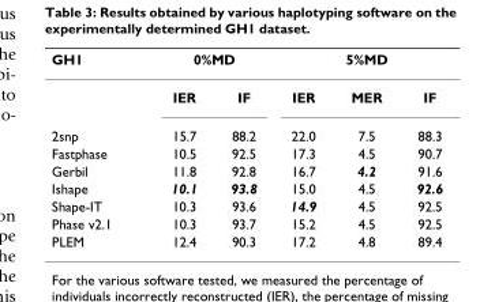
<table><thead><tr><td rowspan="2">GH1</td><td colspan="2">0%MD</td><td colspan="3">5%MD</td></tr><tr><td>IER</td><td>IF</td><td>IER</td><td>MER</td><td>IF</td></tr></thead><tbody><tr><td>2snp</td><td>15.7</td><td>88.2</td><td>22.0</td><td>7.5</td><td>88.3</td></tr><tr><td>Fastphase</td><td>10.5</td><td>92.5</td><td>17.3</td><td>4.5</td><td>90.7</td></tr><tr><td>Gerbil</td><td>11.8</td><td>92.8</td><td>16.7</td><td>4.2</td><td>91.6</td></tr><tr><td>Ishape</td><td>10.1</td><td>93.8</td><td>15.0</td><td>4.5</td><td>92.6</td></tr><tr><td>Shape-IT</td><td>10.3</td><td>93.6</td><td>14.9</td><td>4.5</td><td>92.5</td></tr><tr><td>Phase v2.1</td><td>10.3</td><td>93.7</td><td>15.2</td><td>4.5</td><td>92.5</td></tr><tr><td>PLEM</td><td>12.4</td><td>90.3</td><td>17.2</td><td>4.8</td><td>89.4</td></tr></tbody></table>